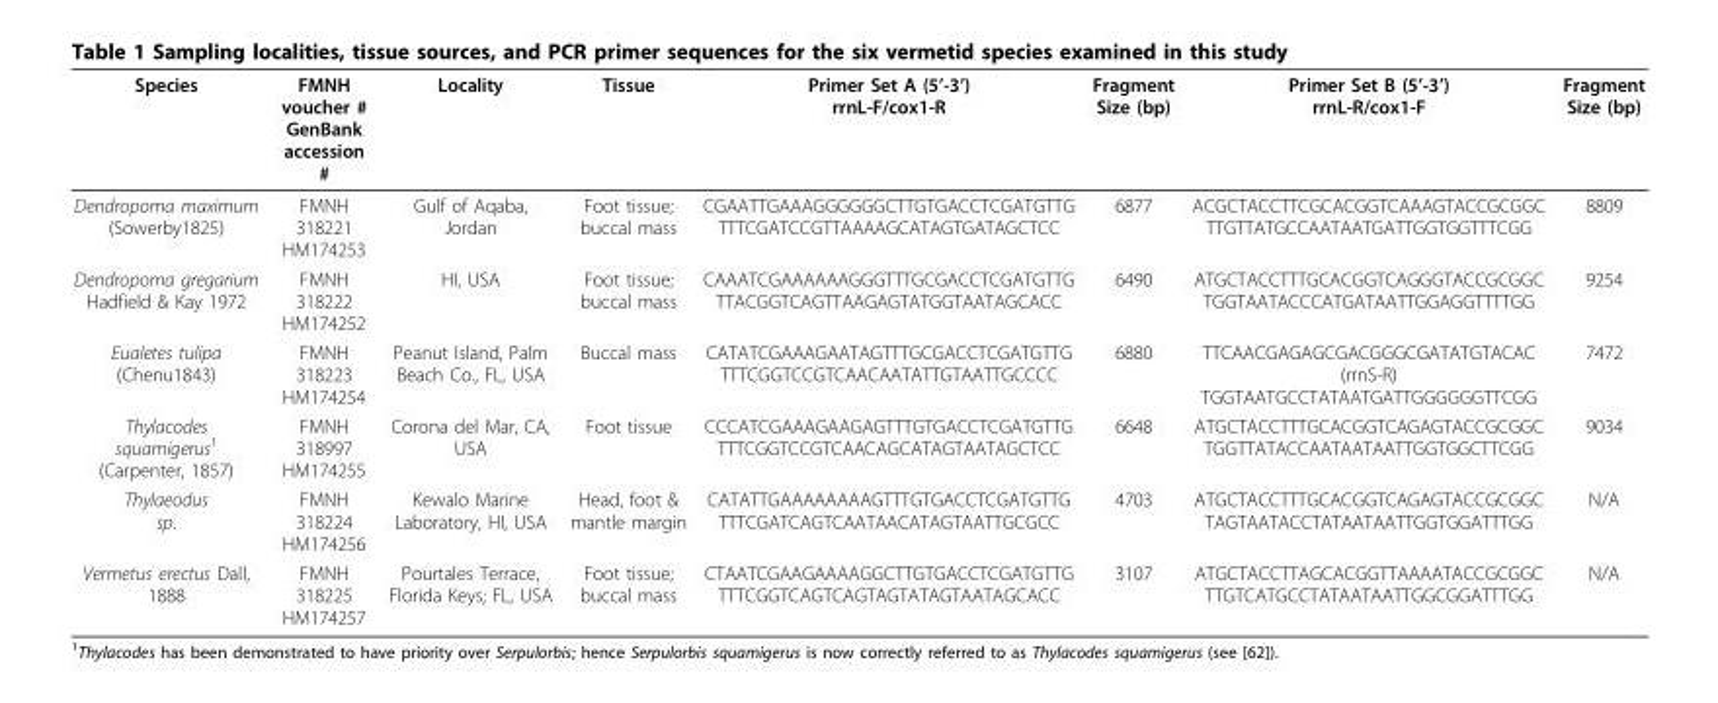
<table><thead><tr><td>Species</td><td>FMNH voucher # GenBank accession #</td><td>Locality</td><td>Tissue</td><td>Primer Set A (5’-3’) rrnL-F/cox1-R</td><td>Fragment Size (bp)</td><td>Primer Set B (5’-3’) rrnL-R/cox1-F</td><td>Fragment Size (bp)</td></tr></thead><tbody><tr><td>Dendropoma maximum (Sowerby1825)</td><td>FMNH 318221 HM174253</td><td>Gulf of Aqaba, Jordan</td><td>Foot tissue; buccal mass</td><td>CGAATTGAAAGGGGGGCTTGTGACCTCGATGTTG TTTCGATCCGTTAAAAGCATAGTGATAGCTCC</td><td>6877</td><td>ACGCTACCTTCGCACGGTCAAAGTACCGCGGC TTGTTATGCCAATAATGATTGGTGGTTTCGG</td><td>8809</td></tr><tr><td>Dendropoma gregarium Hadfield &amp; Kay 1972</td><td>FMNH 318222 HM174252</td><td>HI, USA</td><td>Foot tissue; buccal mass</td><td>CAAATCGAAAAAAGGGTTTGCGACCTCGATGTTG TTACGGTCAGTTAAGAGTATGGTAATAGCACC</td><td>6490</td><td>ATGCTACCTTTGCACGGTCAGGGTACCGCGGC TGGTAATACCCATGATAATTGGAGGTTTTGG</td><td>9254</td></tr><tr><td>Eualetes tulipa (Chenu1843)</td><td>FMNH 318223 HM174254</td><td>Peanut Island, Palm Beach Co., FL, USA</td><td>Buccal mass</td><td>CATATCGAAAGAATAGTTTGCGACCTCGATGTTG TTTCGGTCCGTCAACAATATTGTAATTGCCCC</td><td>6880</td><td>TTCAACGAGAGCGACGGGCGATATGTACAC (rrnS-R) TGGTAATGCCTATAATGATTGGGGGGTTCGG</td><td>7472</td></tr><tr><td>Thylacodes squamigerus<sup>1</sup> (Carpenter, 1857)</td><td>FMNH 318997 HM174255</td><td>Corona del Mar, CA, USA</td><td>Foot tissue</td><td>CCCATCGAAAGAAGAGTTTGTGACCTCGATGTTG TTTCGGTCCGTCAACAGCATAGTAATAGCTCC</td><td>6648</td><td>ATGCTACCTTTGCACGGTCAGAGTACCGCGGC TGGTTATACCAATAATAATTGGTGGCTTCGG</td><td>9034</td></tr><tr><td>Thylaeodus sp.</td><td>FMNH 318224 HM174256</td><td>Kewalo Marine Laboratory, HI, USA</td><td>Head, foot &amp; mantle margin</td><td>CATATTGAAAAAAAAGTTTGTGACCTCGATGTTG TTTCGATCAGTCAATAACATAGTAATTGCGCC</td><td>4703</td><td>ATGCTACCTTTGCACGGTCAGAGTACCGCGGC TAGTAATACCTATAATAATTGGTGGATTTGG</td><td>N/A</td></tr><tr><td>Vermetus erectus Dall, 1888</td><td>FMNH 318225 HM174257</td><td>Pourtales Terrace, Florida Keys; FL, USA</td><td>Foot tissue; buccal mass</td><td>CTAATCGAAGAAAAGGCTTGTGACCTCGATGTTG TTTCGGTCAGTCAGTAGTATAGTAATAGCACC</td><td>3107</td><td>ATGCTACCTTAGCACGGTTAAAATACCGCGGC TTGTCATGCCTATAATAATTGGCGGATTTGG</td><td>N/A</td></tr></tbody></table>